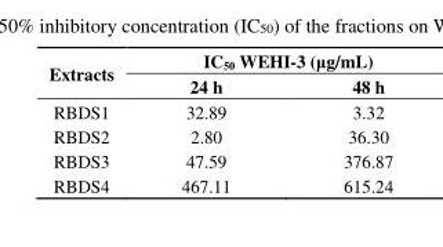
<table><thead><tr><td rowspan="2">Extracts</td><td colspan="2">IC<sub>50</sub> WEHI-3 (μg/mL)</td></tr><tr><td>24 h</td><td>48 h</td></tr></thead><tbody><tr><td>RBDS1</td><td>32.89</td><td>3.32</td></tr><tr><td>RBDS2</td><td>2.80</td><td>36.30</td></tr><tr><td>RBDS3</td><td>47.59</td><td>376.87</td></tr><tr><td>RBDS4</td><td>467.11</td><td>615.24</td></tr></tbody></table>